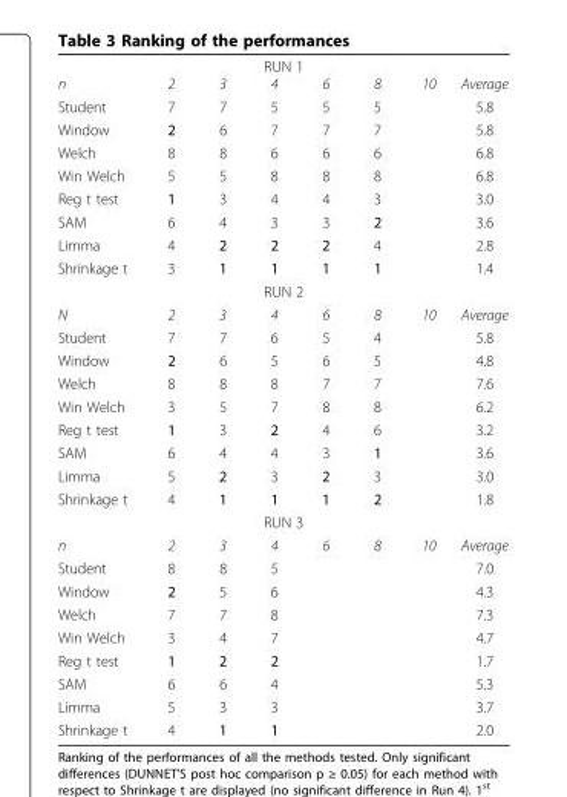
<table><tbody><tr><td colspan="8">RUN 1</td></tr><tr><td>n</td><td>2</td><td>3</td><td>4</td><td>6</td><td>8</td><td>10</td><td>Average</td></tr><tr><td>Student</td><td>7</td><td>7</td><td>5</td><td>5</td><td>5</td><td></td><td>5.8</td></tr><tr><td>Window</td><td>2</td><td>6</td><td>7</td><td>7</td><td>7</td><td></td><td>5.8</td></tr><tr><td>Welch</td><td>8</td><td>8</td><td>6</td><td>6</td><td>6</td><td></td><td>6.8</td></tr><tr><td>Win Welch</td><td>5</td><td>5</td><td>8</td><td>8</td><td>8</td><td></td><td>6.8</td></tr><tr><td>Reg t test</td><td>1</td><td>3</td><td>4</td><td>4</td><td>3</td><td></td><td>3.0</td></tr><tr><td>SAM</td><td>6</td><td>4</td><td>3</td><td>3</td><td>2</td><td></td><td>3.6</td></tr><tr><td>Limma</td><td>4</td><td>2</td><td>2</td><td>2</td><td>4</td><td></td><td>2.8</td></tr><tr><td>Shrinkage t</td><td>3</td><td>1</td><td>1</td><td>1</td><td>1</td><td></td><td>1.4</td></tr><tr><td colspan="8">RUN 2</td></tr><tr><td>N</td><td>2</td><td>3</td><td>4</td><td>6</td><td>8</td><td>10</td><td>Average</td></tr><tr><td>Student</td><td>7</td><td>7</td><td>6</td><td>5</td><td>4</td><td></td><td>5.8</td></tr><tr><td>Window</td><td>2</td><td>6</td><td>5</td><td>6</td><td>5</td><td></td><td>4.8</td></tr><tr><td>Welch</td><td>8</td><td>8</td><td>8</td><td>7</td><td>7</td><td></td><td>7.6</td></tr><tr><td>Win Welch</td><td>3</td><td>5</td><td>7</td><td>8</td><td>8</td><td></td><td>6.2</td></tr><tr><td>Reg t test</td><td>1</td><td>3</td><td>2</td><td>4</td><td>6</td><td></td><td>3.2</td></tr><tr><td>SAM</td><td>6</td><td>4</td><td>4</td><td>3</td><td>1</td><td></td><td>3.6</td></tr><tr><td>Limma</td><td>5</td><td>2</td><td>3</td><td>2</td><td>3</td><td></td><td>3.0</td></tr><tr><td>Shrinkage t</td><td>4</td><td>1</td><td>1</td><td>1</td><td>2</td><td></td><td>1.8</td></tr><tr><td colspan="8">RUN 3</td></tr><tr><td>n</td><td>2</td><td>3</td><td>4</td><td>6</td><td>8</td><td>10</td><td>Average</td></tr><tr><td>Student</td><td>8</td><td>8</td><td>5</td><td></td><td></td><td></td><td>7.0</td></tr><tr><td>Window</td><td>2</td><td>5</td><td>6</td><td></td><td></td><td></td><td>4.3</td></tr><tr><td>Welch</td><td>7</td><td>7</td><td>8</td><td></td><td></td><td></td><td>7.3</td></tr><tr><td>Win Welch</td><td>3</td><td>4</td><td>7</td><td></td><td></td><td></td><td>4.7</td></tr><tr><td>Reg t test</td><td>1</td><td>2</td><td>2</td><td></td><td></td><td></td><td>1.7</td></tr><tr><td>SAM</td><td>6</td><td>6</td><td>4</td><td></td><td></td><td></td><td>5.3</td></tr><tr><td>Limma</td><td>5</td><td>3</td><td>3</td><td></td><td></td><td></td><td>3.7</td></tr><tr><td>Shrinkage t</td><td>4</td><td>1</td><td>1</td><td></td><td></td><td></td><td>2.0</td></tr></tbody></table>